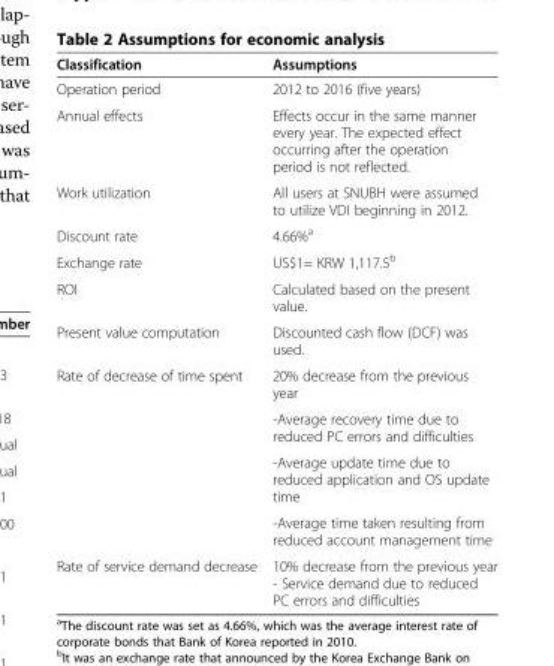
<table><thead><tr><td>Classification</td><td>Assumptions</td></tr></thead><tbody><tr><td>Operation period</td><td>2012 to 2016 (five years)</td></tr><tr><td>Annual effects</td><td>Effects occur in the same manner every year. The expected effect occurring after the operation period is not reflected.</td></tr><tr><td>Work utilization</td><td>All users at SNUBH were assumed to utilize VDI beginning in 2012.</td></tr><tr><td>Discount rate</td><td>4.66%<sup>a</sup></td></tr><tr><td>Exchange rate</td><td>US$1= KRW 1,117.5<sup>b</sup></td></tr><tr><td>ROI</td><td>Calculated based on the present value.</td></tr><tr><td>Present value computation</td><td>Discounted cash flow (DCF) was used.</td></tr><tr><td rowspan="4">Rate of decrease of time spent</td><td>20% decrease from the previous year</td></tr><tr><td>-Average recovery time due to reduced PC errors and difficulties</td></tr><tr><td>-Average update time due to reduced application and OS update time</td></tr><tr><td>-Average time taken resulting from reduced account management time</td></tr><tr><td rowspan="2">Rate of service demand decrease</td><td>10% decrease from the previous year</td></tr><tr><td>- Service demand due to reduced PC errors and difficulties</td></tr></tbody></table>